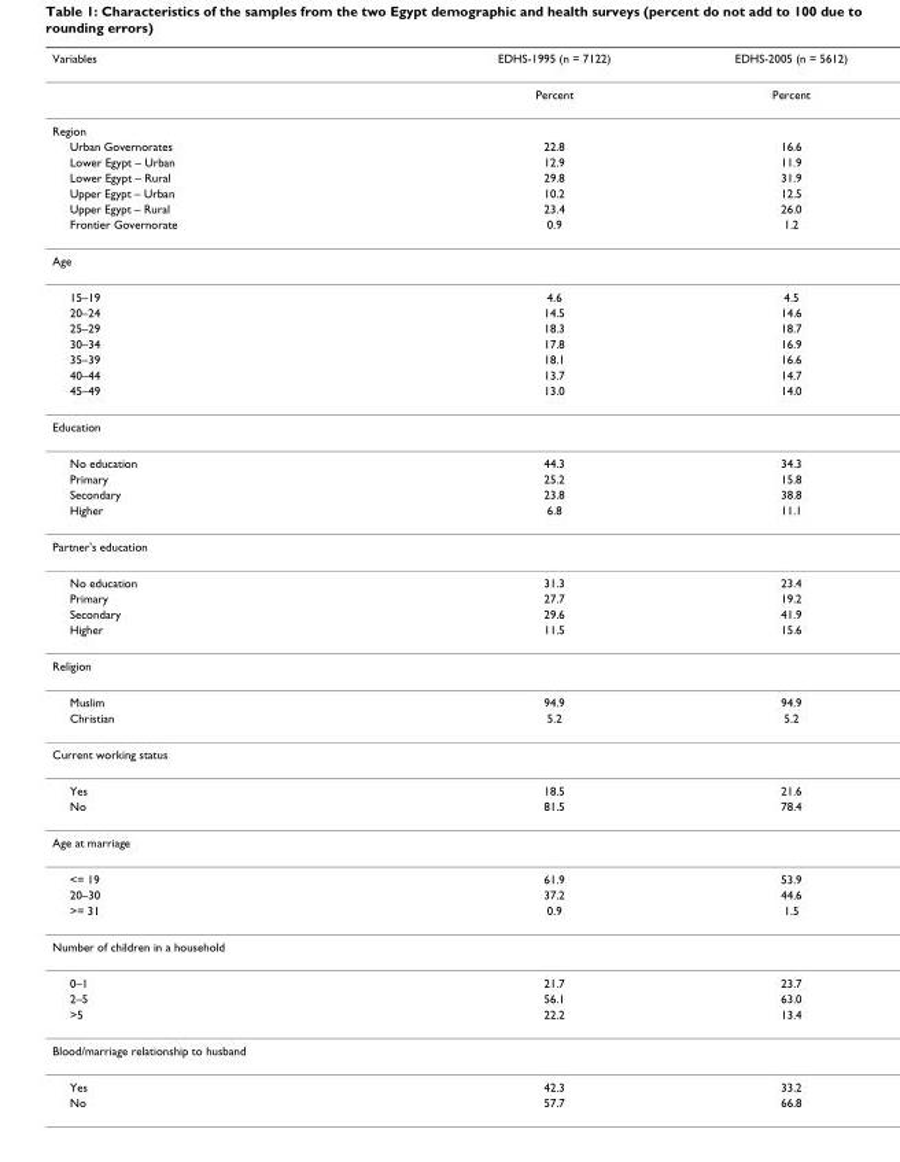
<table><thead><tr><td>Variables</td><td>EDHS-1995 (n = 7122)</td><td>EDHS-2005 (n = 5612)</td></tr></thead><tbody><tr><td></td><td>Percent</td><td>Percent</td></tr><tr><td colspan="3">Region</td></tr><tr><td>Urban Governorates</td><td>22.8</td><td>16.6</td></tr><tr><td>Lower Egypt – Urban</td><td>12.9</td><td>11.9</td></tr><tr><td>Lower Egypt – Rural</td><td>29.8</td><td>31.9</td></tr><tr><td>Upper Egypt – Urban</td><td>10.2</td><td>12.5</td></tr><tr><td>Upper Egypt – Rural</td><td>23.4</td><td>26.0</td></tr><tr><td>Frontier Governorate</td><td>0.9</td><td>1.2</td></tr><tr><td colspan="3">Age</td></tr><tr><td>15–19</td><td>4.6</td><td>4.5</td></tr><tr><td>20–24</td><td>14.5</td><td>14.6</td></tr><tr><td>25–29</td><td>18.3</td><td>18.7</td></tr><tr><td>30–34</td><td>17.8</td><td>16.9</td></tr><tr><td>35–39</td><td>18.1</td><td>16.6</td></tr><tr><td>40–44</td><td>13.7</td><td>14.7</td></tr><tr><td>45–49</td><td>13.0</td><td>14.0</td></tr><tr><td colspan="3">Education</td></tr><tr><td>No education</td><td>44.3</td><td>34.3</td></tr><tr><td>Primary</td><td>25.2</td><td>15.8</td></tr><tr><td>Secondary</td><td>23.8</td><td>38.8</td></tr><tr><td>Higher</td><td>6.8</td><td>11.1</td></tr><tr><td colspan="3">Partner&#x27;s education</td></tr><tr><td>No education</td><td>31.3</td><td>23.4</td></tr><tr><td>Primary</td><td>27.7</td><td>19.2</td></tr><tr><td>Secondary</td><td>29.6</td><td>41.9</td></tr><tr><td>Higher</td><td>11.5</td><td>15.6</td></tr><tr><td colspan="3">Religion</td></tr><tr><td>Muslim</td><td>94.9</td><td>94.9</td></tr><tr><td>Christian</td><td>5.2</td><td>5.2</td></tr><tr><td colspan="3">Current working status</td></tr><tr><td>Yes</td><td>18.5</td><td>21.6</td></tr><tr><td>No</td><td>81.5</td><td>78.4</td></tr><tr><td colspan="3">Age at marriage</td></tr><tr><td>&lt;= 19</td><td>61.9</td><td>53.9</td></tr><tr><td>20–30</td><td>37.2</td><td>44.6</td></tr><tr><td>&gt;= 31</td><td>0.9</td><td>1.5</td></tr><tr><td colspan="3">Number of children in a household</td></tr><tr><td>0–1</td><td>21.7</td><td>23.7</td></tr><tr><td>2–5</td><td>56.1</td><td>63.0</td></tr><tr><td>&gt;5</td><td>22.2</td><td>13.4</td></tr><tr><td colspan="3">Blood/marriage relationship to husband</td></tr><tr><td>Yes</td><td>42.3</td><td>33.2</td></tr><tr><td>No</td><td>57.7</td><td>66.8</td></tr></tbody></table>